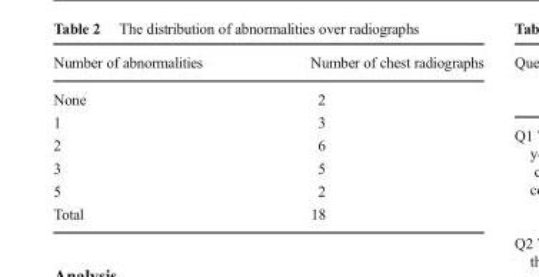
<table><thead><tr><td>Number of abnormalities</td><td>Number of chest radiographs</td></tr></thead><tbody><tr><td>None</td><td>2</td></tr><tr><td>1</td><td>3</td></tr><tr><td>2</td><td>6</td></tr><tr><td>3</td><td>5</td></tr><tr><td>5</td><td>2</td></tr><tr><td>Total</td><td>18</td></tr></tbody></table>